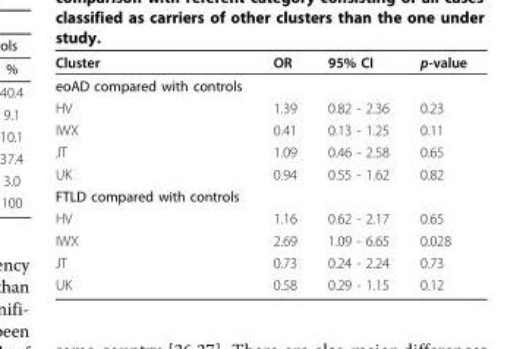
<table><thead><tr><td>Cluster</td><td>OR</td><td>95% CI</td><td>p-value</td></tr></thead><tbody><tr><td colspan="4">eoAD compared with controls</td></tr><tr><td>HV</td><td>1.39</td><td>0.82 - 2.36</td><td>0.23</td></tr><tr><td>IWX</td><td>0.41</td><td>0.13 - 1.25</td><td>0.11</td></tr><tr><td>JT</td><td>1.09</td><td>0.46 - 2.58</td><td>0.65</td></tr><tr><td>UK</td><td>0.94</td><td>0.55 - 1.62</td><td>0.82</td></tr><tr><td colspan="4">FTLD compared with controls</td></tr><tr><td>HV</td><td>1.16</td><td>0.62 - 2.17</td><td>0.65</td></tr><tr><td>IWX</td><td>2.69</td><td>1.09 - 6.65</td><td>0.028</td></tr><tr><td>JT</td><td>0.73</td><td>0.24 - 2.24</td><td>0.73</td></tr><tr><td>UK</td><td>0.58</td><td>0.29 - 1.15</td><td>0.12</td></tr></tbody></table>